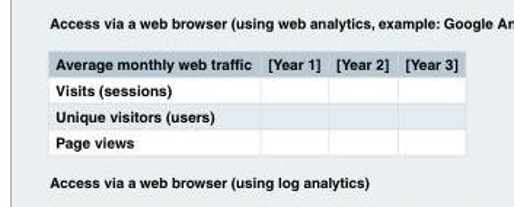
<table><thead><tr><td>Average monthly web traffic</td><td>[Year 1]</td><td>[Year 2]</td><td>[Year 3]</td></tr></thead><tbody><tr><td colspan="4">Visits (sessions)</td></tr><tr><td colspan="4">Unique visitors (users)</td></tr><tr><td>Page views</td><td></td><td></td><td></td></tr></tbody></table>